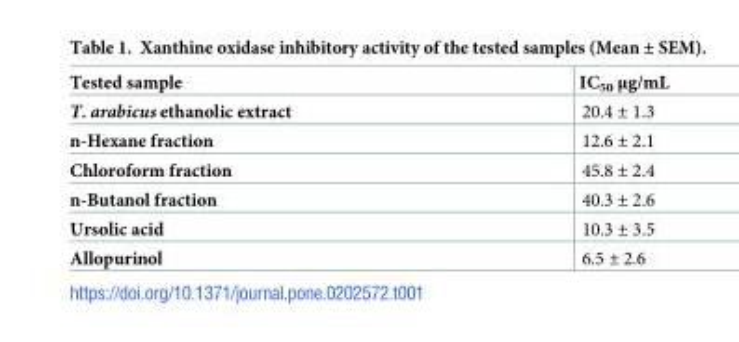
<table><thead><tr><td>Tested sample</td><td>IC<sub>50</sub> μg/mL</td></tr></thead><tbody><tr><td>T. arabicus ethanolic extract</td><td>20.4 ± 1.3</td></tr><tr><td>n-Hexane fraction</td><td>12.6 ± 2.1</td></tr><tr><td>Chloroform fraction</td><td>45.8 ± 2.4</td></tr><tr><td>n-Butanol fraction</td><td>40.3 ± 2.6</td></tr><tr><td>Ursolic acid</td><td>10.3 ± 3.5</td></tr><tr><td>Allopurinol</td><td>6.5 ± 2.6</td></tr></tbody></table>